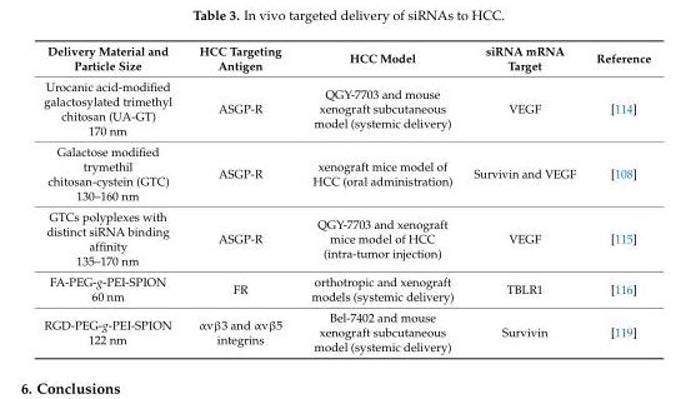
<table><thead><tr><td>Delivery Material and Particle Size</td><td>HCC Targeting Antigen</td><td>HCC Model</td><td>siRNA mRNA Target</td><td>Reference</td></tr></thead><tbody><tr><td>Urocanic acid-modified galactosylated trimethyl chitosan (UA-GT) 170 nm</td><td>ASGP-R</td><td>QGY-7703 and mouse xenograft subcutaneous model (systemic delivery)</td><td>VEGF</td><td>[114]</td></tr><tr><td>Galactose modified trymethil chitosan-cystein (GTC) 130–160 nm</td><td>ASGP-R</td><td>xenograft mice model of HCC (oral administration)</td><td>Survivin and VEGF</td><td>[108]</td></tr><tr><td>GTCs polyplexes with distinct siRNA binding affinity 135–170 nm</td><td>ASGP-R</td><td>QGY-7703 and xenograft mice model of HCC (intra-tumor injection)</td><td>VEGF</td><td>[115]</td></tr><tr><td>FA-PEG-g-PEI-SPION 60 nm</td><td>FR</td><td>orthotropic and xenograft models (systemic delivery)</td><td>TBLR1</td><td>[116]</td></tr><tr><td>RGD-PEG-g-PEI-SPION 122 nm</td><td>αvβ3 and αvβ5 integrins</td><td>Bel-7402 and mouse xenograft subcutaneous model (systemic delivery)</td><td>Survivin</td><td>[119]</td></tr></tbody></table>